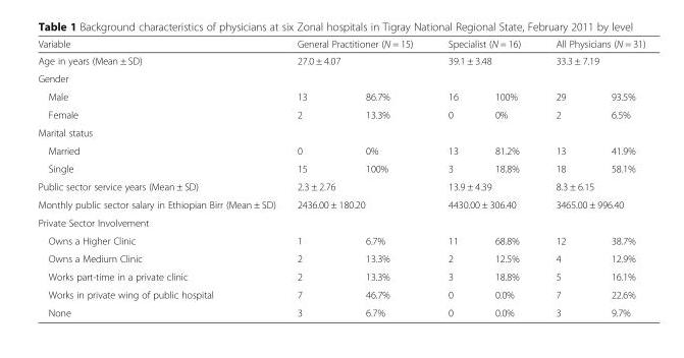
<table><thead><tr><td rowspan="2">Variable Age in years (Mean ± SD)</td><td rowspan="2" colspan="2">General Practitioner (N = 15) 27.0 ± 4.07</td><td rowspan="2" colspan="2">Specialist (N = 16) 39.1 ± 3.48</td><td rowspan="2" colspan="2">All Physicians (N = 31) 33.3 ± 7.19</td></tr><tr></tr><tr><td colspan="7">Gender</td></tr><tr><td>Male</td><td>13</td><td>86.7%</td><td>16</td><td>100%</td><td>29</td><td>93.5%</td></tr></thead><tbody><tr><td>Female</td><td>2</td><td>13.3%</td><td>0</td><td>0%</td><td>2</td><td>6.5%</td></tr><tr><td colspan="7">Marital status</td></tr><tr><td>Married</td><td>0</td><td>0%</td><td>13</td><td>81.2%</td><td>13</td><td>41.9%</td></tr><tr><td>Single</td><td>15</td><td>100%</td><td>3</td><td>18.8%</td><td>18</td><td>58.1%</td></tr><tr><td>Public sector service years (Mean ± SD)</td><td colspan="2">2.3 ± 2.76</td><td colspan="2">13.9 ± 4.39</td><td colspan="2">8.3 ± 6.15</td></tr><tr><td>Monthly public sector salary in Ethiopian Birr (Mean ± SD)</td><td colspan="2">2436.00 ± 180.20</td><td colspan="2">4430.00 ± 306.40</td><td colspan="2">3465.00 ± 996.40</td></tr><tr><td colspan="7">Private Sector Involvement</td></tr><tr><td>Owns a Higher Clinic</td><td>1</td><td>6.7%</td><td>11</td><td>68.8%</td><td>12</td><td>38.7%</td></tr><tr><td>Owns a Medium Clinic</td><td>2</td><td>13.3%</td><td>2</td><td>12.5%</td><td>4</td><td>12.9%</td></tr><tr><td>Works part-time in a private clinic</td><td>2</td><td>13.3%</td><td>3</td><td>18.8%</td><td>5</td><td>16.1%</td></tr><tr><td>Works in private wing of public hospital</td><td>7</td><td>46.7%</td><td>0</td><td>0.0%</td><td>7</td><td>22.6%</td></tr><tr><td>None</td><td>3</td><td>6.7%</td><td>0</td><td>0.0%</td><td>3</td><td>9.7%</td></tr></tbody></table>